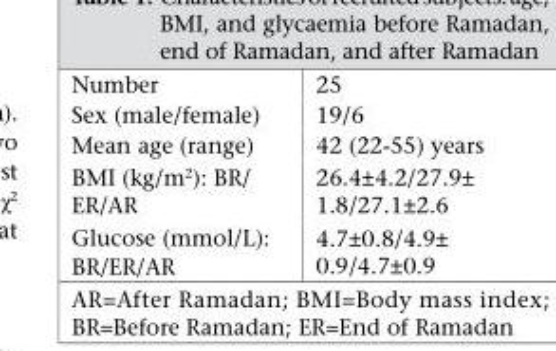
<table><tbody><tr><td>Number</td><td>25</td></tr><tr><td>Sex (male/female)</td><td>19/6</td></tr><tr><td>Mean age (range)</td><td>42 (22-55) years</td></tr><tr><td>BMI (kg/m<sup>2</sup>): BR/ ER/AR</td><td>26.4±4.2/27.9± 1.8/27.1±2.6</td></tr><tr><td>Glucose (mmol/L): BR/ER/AR</td><td>4.7±0.8/4.9± 0.9/4.7±0.9</td></tr></tbody></table>